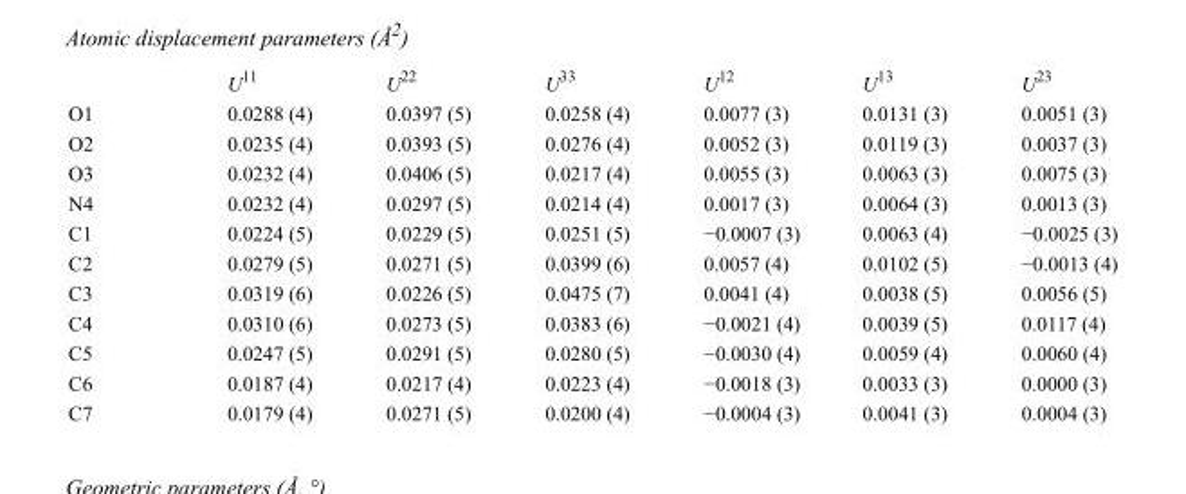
<table><thead><tr><td></td><td>U<sup>11</sup></td><td>U<sup>22</sup></td><td>U<sup>33</sup></td><td>U<sup>12</sup></td><td>U<sup>13</sup></td><td>U<sup>23</sup></td></tr></thead><tbody><tr><td>O1</td><td>0.0288 (4)</td><td>0.0397 (5)</td><td>0.0258 (4)</td><td>0.0077 (3)</td><td>0.0131 (3)</td><td>0.0051 (3)</td></tr><tr><td>O2</td><td>0.0235 (4)</td><td>0.0393 (5)</td><td>0.0276 (4)</td><td>0.0052 (3)</td><td>0.0119 (3)</td><td>0.0037 (3)</td></tr><tr><td>O3</td><td>0.0232 (4)</td><td>0.0406 (5)</td><td>0.0217 (4)</td><td>0.0055 (3)</td><td>0.0063 (3)</td><td>0.0075 (3)</td></tr><tr><td>N4</td><td>0.0232 (4)</td><td>0.0297 (5)</td><td>0.0214 (4)</td><td>0.0017 (3)</td><td>0.0064 (3)</td><td>0.0013 (3)</td></tr><tr><td>C1</td><td>0.0224 (5)</td><td>0.0229 (5)</td><td>0.0251 (5)</td><td>−0.0007 (3)</td><td>0.0063 (4)</td><td>−0.0025 (3)</td></tr><tr><td>C2</td><td>0.0279 (5)</td><td>0.0271 (5)</td><td>0.0399 (6)</td><td>0.0057 (4)</td><td>0.0102 (5)</td><td>−0.0013 (4)</td></tr><tr><td>C3</td><td>0.0319 (6)</td><td>0.0226 (5)</td><td>0.0475 (7)</td><td>0.0041 (4)</td><td>0.0038 (5)</td><td>0.0056 (5)</td></tr><tr><td>C4</td><td>0.0310 (6)</td><td>0.0273 (5)</td><td>0.0383 (6)</td><td>−0.0021 (4)</td><td>0.0039 (5)</td><td>0.0117 (4)</td></tr><tr><td>C5</td><td>0.0247 (5)</td><td>0.0291 (5)</td><td>0.0280 (5)</td><td>−0.0030 (4)</td><td>0.0059 (4)</td><td>0.0060 (4)</td></tr><tr><td>C6</td><td>0.0187 (4)</td><td>0.0217 (4)</td><td>0.0223 (4)</td><td>−0.0018 (3)</td><td>0.0033 (3)</td><td>0.0000 (3)</td></tr><tr><td>C7</td><td>0.0179 (4)</td><td>0.0271 (5)</td><td>0.0200 (4)</td><td>−0.0004 (3)</td><td>0.0041 (3)</td><td>0.0004 (3)</td></tr></tbody></table>